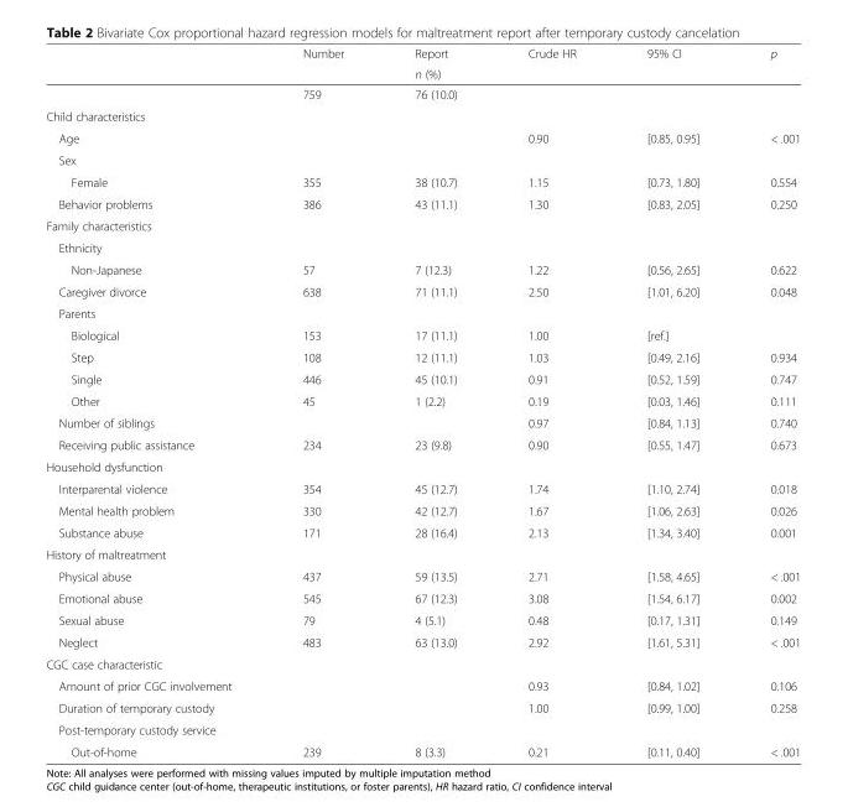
<table><thead><tr><td rowspan="2"></td><td rowspan="2">Number</td><td rowspan="2">Report n (%)</td><td rowspan="2">Crude HR</td><td rowspan="2">95% CI</td><td rowspan="2">p</td></tr><tr></tr></thead><tbody><tr><td></td><td>759</td><td>76 (10.0)</td><td></td><td></td><td></td></tr><tr><td colspan="6">Child characteristics</td></tr><tr><td>Age</td><td></td><td></td><td>0.90</td><td>[0.85, 0.95]</td><td>&lt; .001</td></tr><tr><td colspan="6">Sex</td></tr><tr><td>Female</td><td>355</td><td>38 (10.7)</td><td>1.15</td><td>[0.73, 1.80]</td><td>0.554</td></tr><tr><td>Behavior problems</td><td>386</td><td>43 (11.1)</td><td>1.30</td><td>[0.83, 2.05]</td><td>0.250</td></tr><tr><td colspan="6">Family characteristics</td></tr><tr><td colspan="6">Ethnicity</td></tr><tr><td>Non-Japanese</td><td>57</td><td>7 (12.3)</td><td>1.22</td><td>[0.56, 2.65]</td><td>0.622</td></tr><tr><td>Caregiver divorce</td><td>638</td><td>71 (11.1)</td><td>2.50</td><td>[1.01, 6.20]</td><td>0.048</td></tr><tr><td colspan="6">Parents</td></tr><tr><td>Biological</td><td>153</td><td>17 (11.1)</td><td>1.00</td><td>[ref.]</td><td></td></tr><tr><td>Step</td><td>108</td><td>12 (11.1)</td><td>1.03</td><td>[0.49, 2.16]</td><td>0.934</td></tr><tr><td>Single</td><td>446</td><td>45 (10.1)</td><td>0.91</td><td>[0.52, 1.59]</td><td>0.747</td></tr><tr><td>Other</td><td>45</td><td>1 (2.2)</td><td>0.19</td><td>[0.03, 1.46]</td><td>0.111</td></tr><tr><td>Number of siblings</td><td></td><td></td><td>0.97</td><td>[0.84, 1.13]</td><td>0.740</td></tr><tr><td>Receiving public assistance</td><td>234</td><td>23 (9.8)</td><td>0.90</td><td>[0.55, 1.47]</td><td>0.673</td></tr><tr><td colspan="6">Household dysfunction</td></tr><tr><td>Interparental violence</td><td>354</td><td>45 (12.7)</td><td>1.74</td><td>[1.10, 2.74]</td><td>0.018</td></tr><tr><td>Mental health problem</td><td>330</td><td>42 (12.7)</td><td>1.67</td><td>[1.06, 2.63]</td><td>0.026</td></tr><tr><td>Substance abuse</td><td>171</td><td>28 (16.4)</td><td>2.13</td><td>[1.34, 3.40]</td><td>0.001</td></tr><tr><td colspan="6">History of maltreatment</td></tr><tr><td>Physical abuse</td><td>437</td><td>59 (13.5)</td><td>2.71</td><td>[1.58, 4.65]</td><td>&lt; .001</td></tr><tr><td>Emotional abuse</td><td>545</td><td>67 (12.3)</td><td>3.08</td><td>[1.54, 6.17]</td><td>0.002</td></tr><tr><td>Sexual abuse</td><td>79</td><td>4 (5.1)</td><td>0.48</td><td>[0.17, 1.31]</td><td>0.149</td></tr><tr><td>Neglect</td><td>483</td><td>63 (13.0)</td><td>2.92</td><td>[1.61, 5.31]</td><td>&lt; .001</td></tr><tr><td colspan="6">CGC case characteristic</td></tr><tr><td>Amount of prior CGC involvement</td><td></td><td></td><td>0.93</td><td>[0.84, 1.02]</td><td>0.106</td></tr><tr><td>Duration of temporary custody</td><td></td><td></td><td>1.00</td><td>[0.99, 1.00]</td><td>0.258</td></tr><tr><td colspan="6">Post-temporary custody service</td></tr><tr><td>Out-of-home</td><td>239</td><td>8 (3.3)</td><td>0.21</td><td>[0.11, 0.40]</td><td>&lt; .001</td></tr></tbody></table>